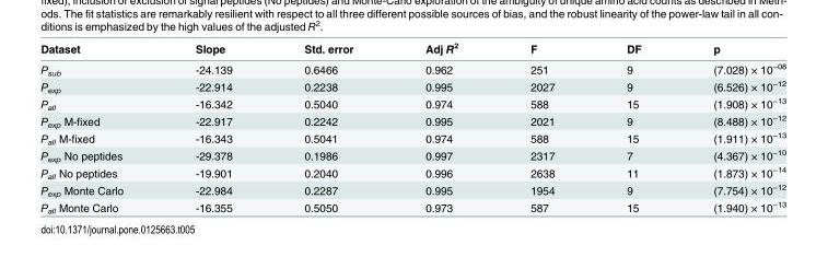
<table><thead><tr><td>Dataset</td><td>Slope</td><td>Std. error</td><td>Adj R<sup>2</sup></td><td>F</td><td>DF</td><td>p</td></tr></thead><tbody><tr><td>P<sub>sub</sub></td><td>-24.139</td><td>0.6466</td><td>0.962</td><td>251</td><td>9</td><td>(7.028) × 10<sup>−08</sup></td></tr><tr><td>P<sub>exp</sub></td><td>-22.914</td><td>0.2238</td><td>0.995</td><td>2027</td><td>9</td><td>(6.526) × 10<sup>−12</sup></td></tr><tr><td>P<sub>all</sub></td><td>-16.342</td><td>0.5040</td><td>0.974</td><td>588</td><td>15</td><td>(1.908) × 10<sup>−13</sup></td></tr><tr><td>P<sub>exp</sub> M-fixed</td><td>-22.917</td><td>0.2242</td><td>0.995</td><td>2021</td><td>9</td><td>(8.488) × 10<sup>−12</sup></td></tr><tr><td>P<sub>all</sub> M-fixed</td><td>-16.343</td><td>0.5041</td><td>0.974</td><td>588</td><td>15</td><td>(1.911) × 10<sup>−13</sup></td></tr><tr><td>P<sub>exp</sub> No peptides</td><td>-29.378</td><td>0.1986</td><td>0.997</td><td>2317</td><td>7</td><td>(4.367) × 10<sup>−10</sup></td></tr><tr><td>P<sub>all</sub> No peptides</td><td>-19.901</td><td>0.2040</td><td>0.996</td><td>2638</td><td>11</td><td>(1.873) × 10<sup>−14</sup></td></tr><tr><td>P<sub>exp</sub> Monte Carlo</td><td>-22.984</td><td>0.2287</td><td>0.995</td><td>1954</td><td>9</td><td>(7.754) × 10<sup>−12</sup></td></tr><tr><td>P<sub>all</sub> Monte Carlo</td><td>-16.355</td><td>0.5050</td><td>0.973</td><td>587</td><td>15</td><td>(1.940) × 10<sup>−13</sup></td></tr></tbody></table>